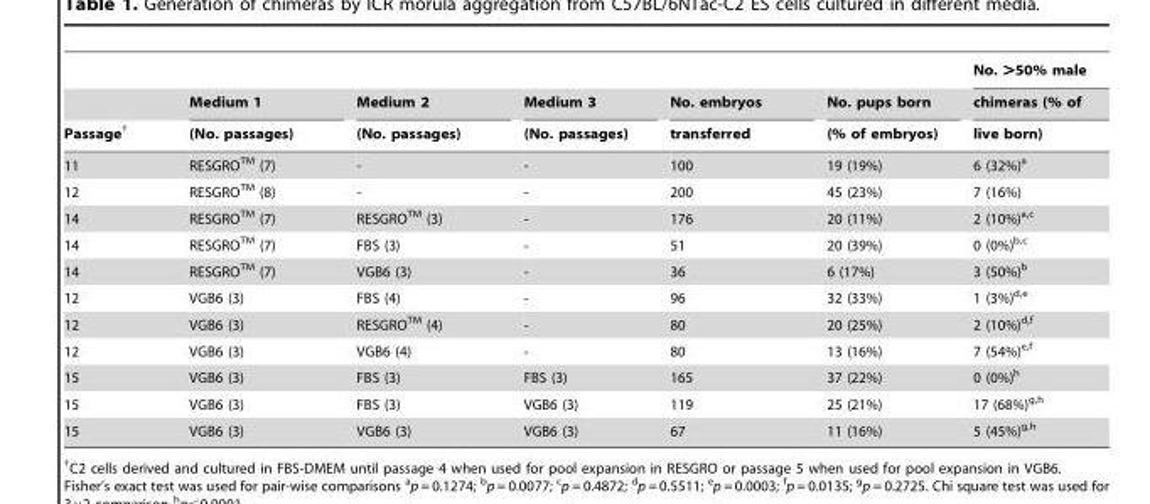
<table><thead><tr><td rowspan="3">Passage†</td><td rowspan="3">Medium 1 (No. passages)</td><td rowspan="3">Medium 2 (No. passages)</td><td rowspan="3">Medium 3 (No. passages)</td><td rowspan="3">No. embryos transferred</td><td rowspan="3">No. pups born (% of embryos)</td><td rowspan="3">No. &gt;50% male chimeras (% of live born)</td></tr><tr></tr><tr></tr></thead><tbody><tr><td>11</td><td>RESGROTM (7)</td><td>-</td><td>-</td><td>100</td><td>19 (19%)</td><td>6 (32%)<sup>a</sup></td></tr><tr><td>12</td><td>RESGROTM (8)</td><td>-</td><td>-</td><td>200</td><td>45 (23%)</td><td>7 (16%)</td></tr><tr><td>14</td><td>RESGROTM (7)</td><td>RESGROTM (3)</td><td>-</td><td>176</td><td>20 (11%)</td><td>2 (10%)<sup>a,c</sup></td></tr><tr><td>14</td><td>RESGROTM (7)</td><td>FBS (3)</td><td>-</td><td>51</td><td>20 (39%)</td><td>0 (0%)<sup>b,c</sup></td></tr><tr><td>14</td><td>RESGROTM (7)</td><td>VGB6 (3)</td><td>-</td><td>36</td><td>6 (17%)</td><td>3 (50%)<sup>b</sup></td></tr><tr><td>12</td><td>VGB6 (3)</td><td>FBS (4)</td><td>-</td><td>96</td><td>32 (33%)</td><td>1 (3%)<sup>d,e</sup></td></tr><tr><td>12</td><td>VGB6 (3)</td><td>RESGROTM (4)</td><td>-</td><td>80</td><td>20 (25%)</td><td>2 (10%)<sup>d,f</sup></td></tr><tr><td>12</td><td>VGB6 (3)</td><td>VGB6 (4)</td><td>-</td><td>80</td><td>13 (16%)</td><td>7 (54%)<sup>e,f</sup></td></tr><tr><td>15</td><td>VGB6 (3)</td><td>FBS (3)</td><td>FBS (3)</td><td>165</td><td>37 (22%)</td><td>0 (0%)<sup>h</sup></td></tr><tr><td>15</td><td>VGB6 (3)</td><td>FBS (3)</td><td>VGB6 (3)</td><td>119</td><td>25 (21%)</td><td>17 (68%)<sup>g,h</sup></td></tr><tr><td>15</td><td>VGB6 (3)</td><td>VGB6 (3)</td><td>VGB6 (3)</td><td>67</td><td>11 (16%)</td><td>5 (45%)<sup>g,h</sup></td></tr></tbody></table>